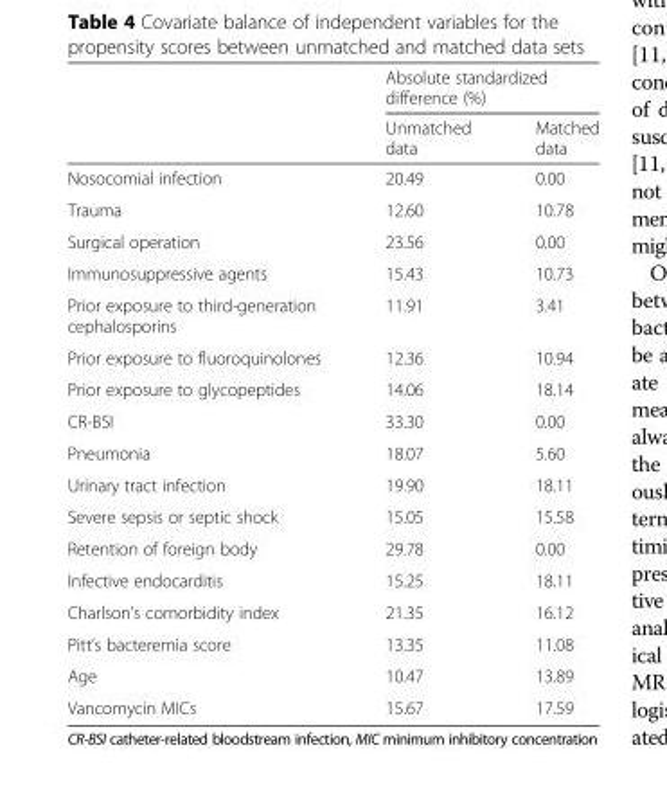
<table><thead><tr><td rowspan="2"></td><td colspan="2">Absolute standardized difference (%)</td></tr><tr><td>Unmatched data</td><td>Matched data</td></tr></thead><tbody><tr><td>Nosocomial infection</td><td>20.49</td><td>0.00</td></tr><tr><td>Trauma</td><td>12.60</td><td>10.78</td></tr><tr><td>Surgical operation</td><td>23.56</td><td>0.00</td></tr><tr><td>Immunosuppressive agents</td><td>15.43</td><td>10.73</td></tr><tr><td>Prior exposure to third-generation cephalosporins</td><td>11.91</td><td>3.41</td></tr><tr><td>Prior exposure to fluoroquinolones</td><td>12.36</td><td>10.94</td></tr><tr><td>Prior exposure to glycopeptides</td><td>14.06</td><td>18.14</td></tr><tr><td>CR-BSI</td><td>33.30</td><td>0.00</td></tr><tr><td>Pneumonia</td><td>18.07</td><td>5.60</td></tr><tr><td>Urinary tract infection</td><td>19.90</td><td>18.11</td></tr><tr><td>Severe sepsis or septic shock</td><td>15.05</td><td>15.58</td></tr><tr><td>Retention of foreign body</td><td>29.78</td><td>0.00</td></tr><tr><td>Infective endocarditis</td><td>15.25</td><td>18.11</td></tr><tr><td>Charlson’s comorbidity index</td><td>21.35</td><td>16.12</td></tr><tr><td>Pitt’s bacteremia score</td><td>13.35</td><td>11.08</td></tr><tr><td>Age</td><td>10.47</td><td>13.89</td></tr><tr><td>Vancomycin MICs</td><td>15.67</td><td>17.59</td></tr></tbody></table>